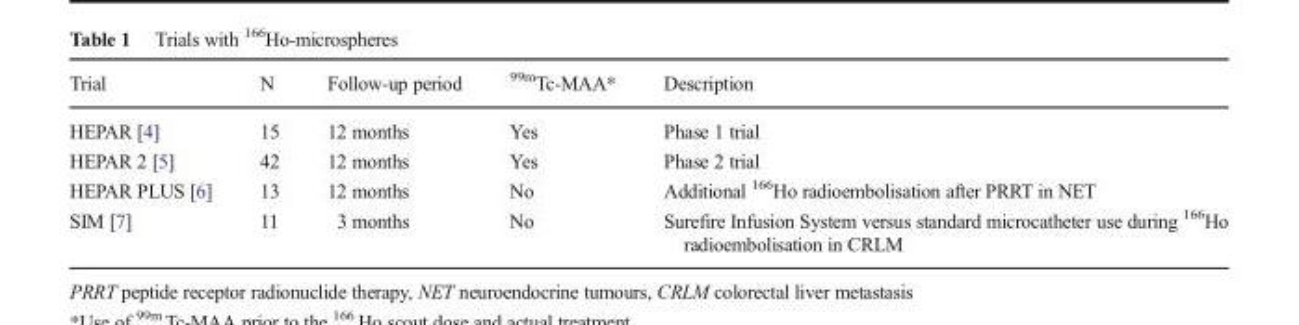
<table><thead><tr><td>Trial</td><td>N</td><td>Follow-up period</td><td><sup>99m</sup>Tc-MAA*</td><td>Description</td></tr></thead><tbody><tr><td>HEPAR [4]</td><td>15</td><td>12 months</td><td>Yes</td><td>Phase 1 trial</td></tr><tr><td>HEPAR 2 [5]</td><td>42</td><td>12 months</td><td>Yes</td><td>Phase 2 trial</td></tr><tr><td>HEPAR PLUS [6]</td><td>13</td><td>12 months</td><td>No</td><td>Additional <sup>166</sup>Ho radioembolisation after PRRT in NET</td></tr><tr><td>SIM [7]</td><td>11</td><td>3 months</td><td>No</td><td>Surefire Infusion System versus standard microcatheter use during <sup>166</sup>Ho radioembolisation in CRLM</td></tr></tbody></table>